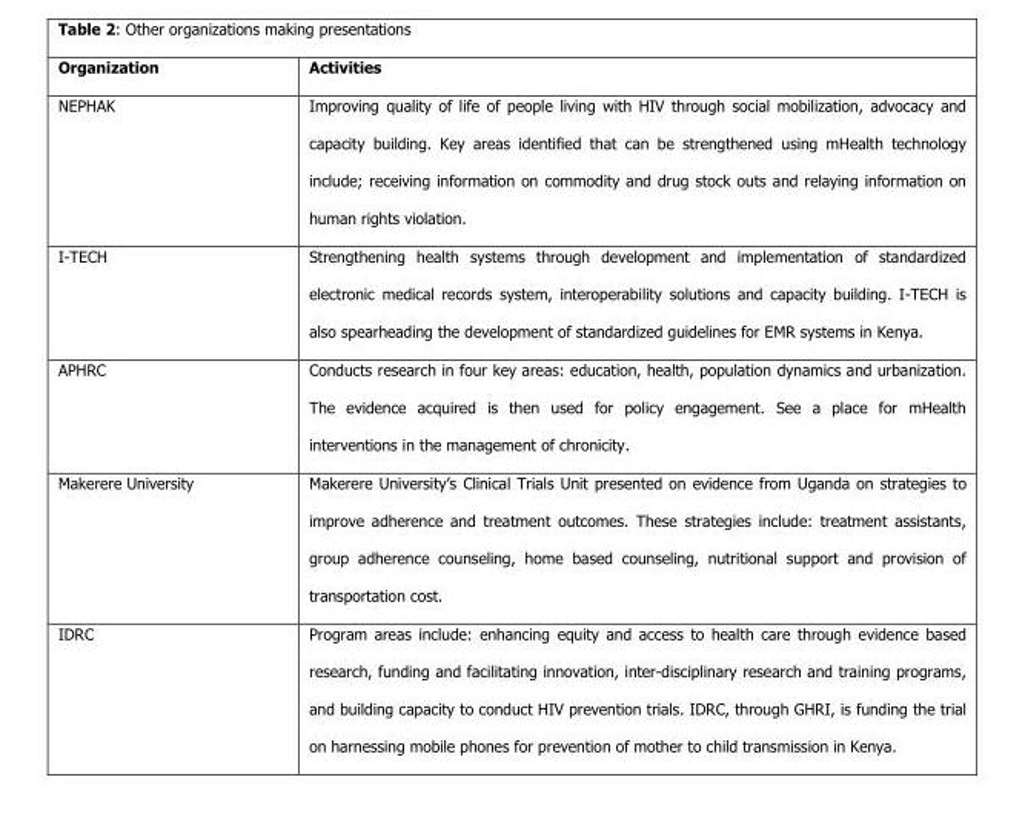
<table><thead><tr><td>Organization</td><td>Activities</td></tr></thead><tbody><tr><td>NEPHAK</td><td>Improving quality of life of people living with HIV through social mobilization, advocacy and capacity building. Key areas identified that can be strengthened using mHealth technology include; receiving information on commodity and drug stock outs and relaying information on human rights violation.</td></tr><tr><td>I-TECH</td><td>Strengthening health systems through development and implementation of standardized electronic medical records system, interoperability solutions and capacity building. I-TECH is also spearheading the development of standardized guidelines for EMR systems in Kenya.</td></tr><tr><td>APHRC</td><td>Conducts research in four key areas: education, health, population dynamics and urbanization. The evidence acquired is then used for policy engagement. See a place for mHealth interventions in the management of chronicity.</td></tr><tr><td>Makerere University</td><td>Makerere University’s Clinical Trials Unit presented on evidence from Uganda on strategies to improve adherence and treatment outcomes. These strategies include: treatment assistants, group adherence counseling, home based counseling, nutritional support and provision of transportation cost.</td></tr><tr><td>IDRC</td><td>Program areas include: enhancing equity and access to health care through evidence based research, funding and facilitating innovation, inter-disciplinary research and training programs, and building capacity to conduct HIV prevention trials. IDRC, through GHRI, is funding the trial on harnessing mobile phones for prevention of mother to child transmission in Kenya.</td></tr></tbody></table>